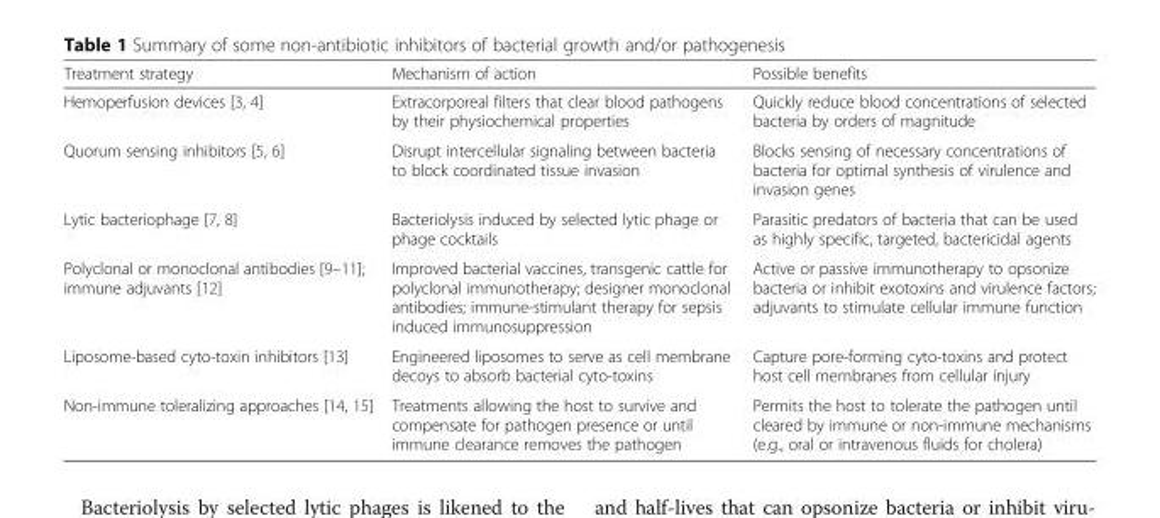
<table><thead><tr><td>Treatment strategy</td><td>Mechanism of action</td><td>Possible benefits</td></tr></thead><tbody><tr><td>Hemoperfusion devices [3, 4]</td><td>Extracorporeal filters that clear blood pathogens by their physiochemical properties</td><td>Quickly reduce blood concentrations of selected bacteria by orders of magnitude</td></tr><tr><td>Quorum sensing inhibitors [5, 6]</td><td>Disrupt intercellular signaling between bacteria to block coordinated tissue invasion</td><td>Blocks sensing of necessary concentrations of bacteria for optimal synthesis of virulence and invasion genes</td></tr><tr><td>Lytic bacteriophage [7, 8]</td><td>Bacteriolysis induced by selected lytic phage or phage cocktails</td><td>Parasitic predators of bacteria that can be used as highly specific, targeted, bactericidal agents</td></tr><tr><td>Polyclonal or monoclonal antibodies [9–11]; immune adjuvants [12]</td><td>Improved bacterial vaccines, transgenic cattle for polyclonal immunotherapy; designer monoclonal antibodies; immune-stimulant therapy for sepsis induced immunosuppression</td><td>Active or passive immunotherapy to opsonize bacteria or inhibit exotoxins and virulence factors; adjuvants to stimulate cellular immune function</td></tr><tr><td>Liposome-based cyto-toxin inhibitors [13]</td><td>Engineered liposomes to serve as cell membrane decoys to absorb bacterial cyto-toxins</td><td>Capture pore-forming cyto-toxins and protect host cell membranes from cellular injury</td></tr><tr><td>Non-immune toleralizing approaches [14, 15]</td><td>Treatments allowing the host to survive and compensate for pathogen presence or until immune clearance removes the pathogen</td><td>Permits the host to tolerate the pathogen until cleared by immune or non-immune mechanisms (e.g., oral or intravenous fluids for cholera)</td></tr></tbody></table>